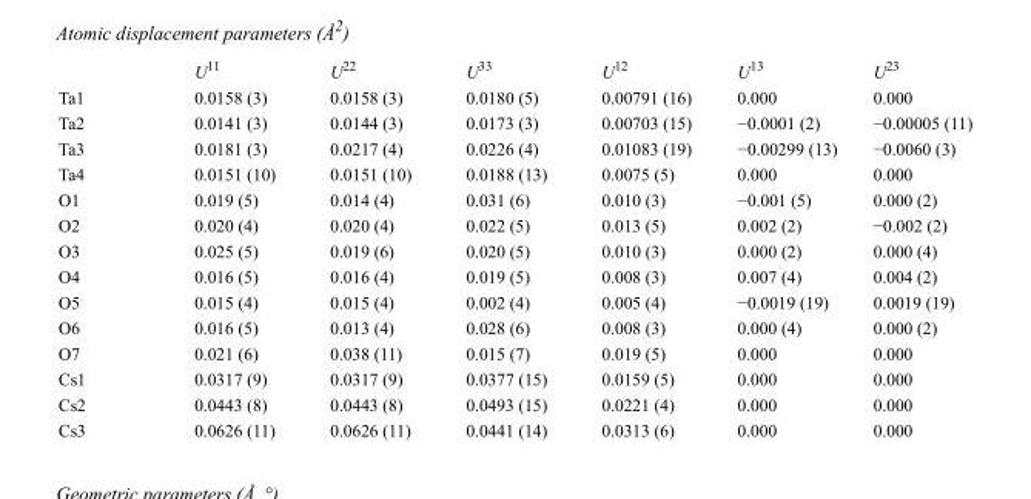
<table><thead><tr><td></td><td>U<sup>11</sup></td><td>U<sup>22</sup></td><td>U<sup>33</sup></td><td>U<sup>12</sup></td><td>U<sup>13</sup></td><td>U<sup>23</sup></td></tr></thead><tbody><tr><td>Ta1</td><td>0.0158 (3)</td><td>0.0158 (3)</td><td>0.0180 (5)</td><td>0.00791 (16)</td><td>0.000</td><td>0.000</td></tr><tr><td>Ta2</td><td>0.0141 (3)</td><td>0.0144 (3)</td><td>0.0173 (3)</td><td>0.00703 (15)</td><td>−0.0001 (2)</td><td>−0.00005 (11)</td></tr><tr><td>Ta3</td><td>0.0181 (3)</td><td>0.0217 (4)</td><td>0.0226 (4)</td><td>0.01083 (19)</td><td>−0.00299 (13)</td><td>−0.0060 (3)</td></tr><tr><td>Ta4</td><td>0.0151 (10)</td><td>0.0151 (10)</td><td>0.0188 (13)</td><td>0.0075 (5)</td><td>0.000</td><td>0.000</td></tr><tr><td>O1</td><td>0.019 (5)</td><td>0.014 (4)</td><td>0.031 (6)</td><td>0.010 (3)</td><td>−0.001 (5)</td><td>0.000 (2)</td></tr><tr><td>O2</td><td>0.020 (4)</td><td>0.020 (4)</td><td>0.022 (5)</td><td>0.013 (5)</td><td>0.002 (2)</td><td>−0.002 (2)</td></tr><tr><td>O3</td><td>0.025 (5)</td><td>0.019 (6)</td><td>0.020 (5)</td><td>0.010 (3)</td><td>0.000 (2)</td><td>0.000 (4)</td></tr><tr><td>O4</td><td>0.016 (5)</td><td>0.016 (4)</td><td>0.019 (5)</td><td>0.008 (3)</td><td>0.007 (4)</td><td>0.004 (2)</td></tr><tr><td>O5</td><td>0.015 (4)</td><td>0.015 (4)</td><td>0.002 (4)</td><td>0.005 (4)</td><td>−0.0019 (19)</td><td>0.0019 (19)</td></tr><tr><td>O6</td><td>0.016 (5)</td><td>0.013 (4)</td><td>0.028 (6)</td><td>0.008 (3)</td><td>0.000 (4)</td><td>0.000 (2)</td></tr><tr><td>O7</td><td>0.021 (6)</td><td>0.038 (11)</td><td>0.015 (7)</td><td>0.019 (5)</td><td>0.000</td><td>0.000</td></tr><tr><td>Cs1</td><td>0.0317 (9)</td><td>0.0317 (9)</td><td>0.0377 (15)</td><td>0.0159 (5)</td><td>0.000</td><td>0.000</td></tr><tr><td>Cs2</td><td>0.0443 (8)</td><td>0.0443 (8)</td><td>0.0493 (15)</td><td>0.0221 (4)</td><td>0.000</td><td>0.000</td></tr><tr><td>Cs3</td><td>0.0626 (11)</td><td>0.0626 (11)</td><td>0.0441 (14)</td><td>0.0313 (6)</td><td>0.000</td><td>0.000</td></tr></tbody></table>